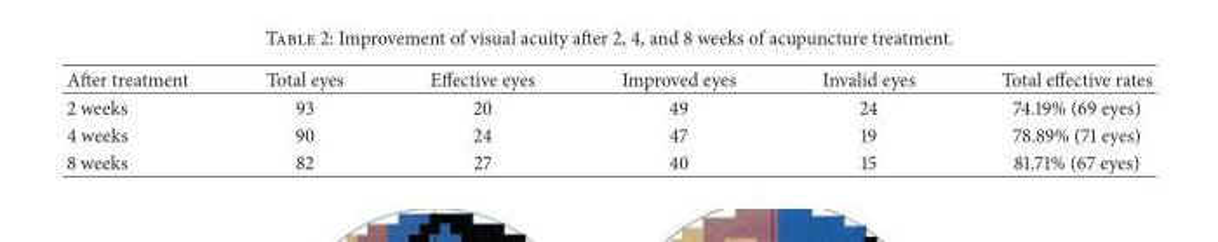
<table><thead><tr><td>After treatment</td><td>Total eyes</td><td>Effective eyes</td><td>Improved eyes</td><td>Invalid eyes</td><td>Total effective rates</td></tr></thead><tbody><tr><td>2 weeks</td><td>93</td><td>20</td><td>49</td><td>24</td><td>74.19% (69 eyes)</td></tr><tr><td>4 weeks</td><td>90</td><td>24</td><td>47</td><td>19</td><td>78.89% (71 eyes)</td></tr><tr><td>8 weeks</td><td>82</td><td>27</td><td>40</td><td>15</td><td>81.71% (67 eyes)</td></tr></tbody></table>